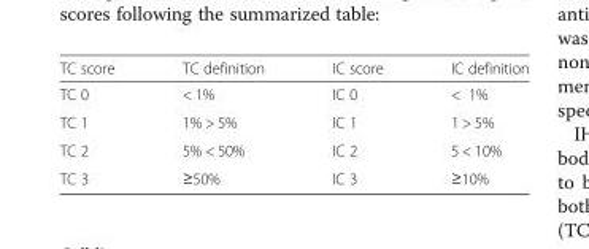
<table><thead><tr><td>TC score</td><td>TC definition</td><td>IC score</td><td>IC definition</td></tr></thead><tbody><tr><td>TC 0</td><td>&lt; 1%</td><td>IC 0</td><td>&lt; 1%</td></tr><tr><td>TC 1</td><td>1% &gt; 5%</td><td>IC 1</td><td>1 &gt; 5%</td></tr><tr><td>TC 2</td><td>5% &lt; 50%</td><td>IC 2</td><td>5 &lt; 10%</td></tr><tr><td>TC 3</td><td>≥50%</td><td>IC 3</td><td>≥10%</td></tr></tbody></table>